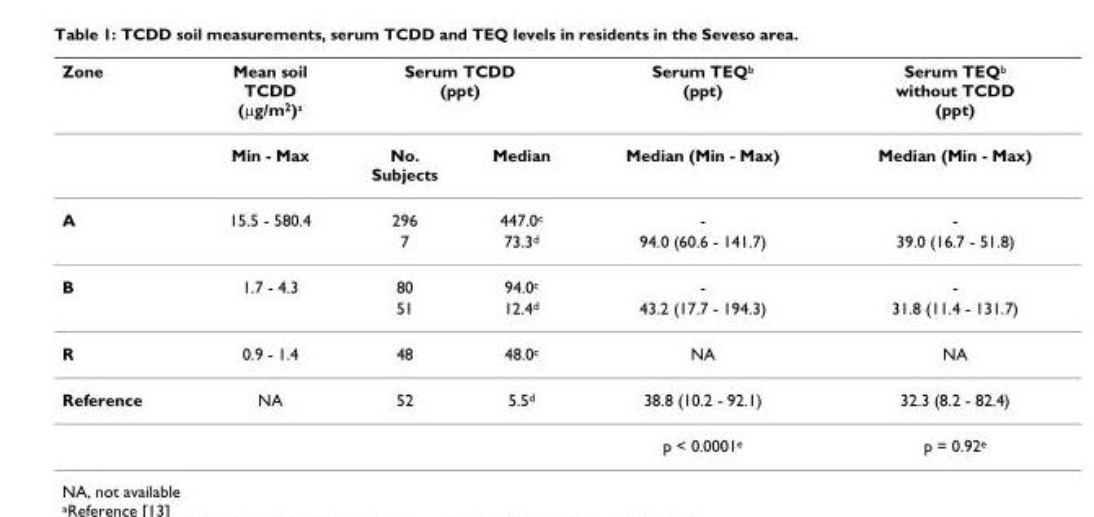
<table><thead><tr><td rowspan="2">Zone</td><td rowspan="2">Mean soil TCDD (μg/m2)a Min - Max</td><td colspan="2">Serum TCDD (ppt)</td><td rowspan="2">Serum TEQb (ppt) Median (Min - Max)</td><td rowspan="2">Serum TEQb without TCDD (ppt) Median (Min - Max)</td></tr><tr><td>No. Subjects</td><td>Median</td></tr></thead><tbody><tr><td rowspan="2">A</td><td>15.5 - 580.4</td><td>296</td><td>447.0<sup>c</sup></td><td>-</td><td>-</td></tr><tr><td></td><td>7</td><td>73.3<sup>d</sup></td><td>94.0 (60.6 - 141.7)</td><td>39.0 (16.7 - 51.8)</td></tr><tr><td rowspan="2">B</td><td>1.7 - 4.3</td><td>80</td><td>94.0<sup>c</sup></td><td>-</td><td>-</td></tr><tr><td></td><td>51</td><td>12.4<sup>d</sup></td><td>43.2 (17.7 - 194.3)</td><td>31.8 (11.4 - 131.7)</td></tr><tr><td>R</td><td>0.9 - 1.4</td><td>48</td><td>48.0<sup>c</sup></td><td>NA</td><td>NA</td></tr><tr><td rowspan="2">Reference</td><td>NA</td><td>52</td><td>5.5<sup>d</sup></td><td>38.8 (10.2 - 92.1)</td><td>32.3 (8.2 - 82.4)</td></tr><tr><td></td><td></td><td></td><td>p &lt; 0.0001<sup>e</sup></td><td>p = 0.92<sup>e</sup></td></tr></tbody></table>